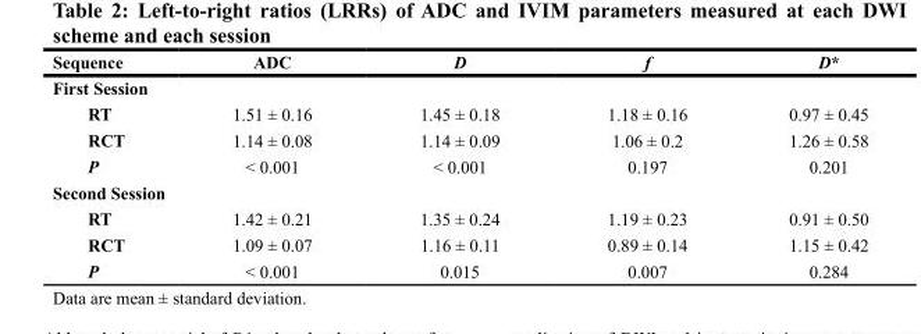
<table><thead><tr><td>Sequence</td><td>ADC</td><td>D</td><td>f</td><td>D*</td></tr></thead><tbody><tr><td colspan="5">First Session</td></tr><tr><td>RT</td><td>1.51 ± 0.16</td><td>1.45 ± 0.18</td><td>1.18 ± 0.16</td><td>0.97 ± 0.45</td></tr><tr><td>RCT</td><td>1.14 ± 0.08</td><td>1.14 ± 0.09</td><td>1.06 ± 0.2</td><td>1.26 ± 0.58</td></tr><tr><td>P</td><td>&lt; 0.001</td><td>&lt; 0.001</td><td>0.197</td><td>0.201</td></tr><tr><td colspan="5">Second Session</td></tr><tr><td>RT</td><td>1.42 ± 0.21</td><td>1.35 ± 0.24</td><td>1.19 ± 0.23</td><td>0.91 ± 0.50</td></tr><tr><td>RCT</td><td>1.09 ± 0.07</td><td>1.16 ± 0.11</td><td>0.89 ± 0.14</td><td>1.15 ± 0.42</td></tr><tr><td>P</td><td>&lt; 0.001</td><td>0.015</td><td>0.007</td><td>0.284</td></tr></tbody></table>